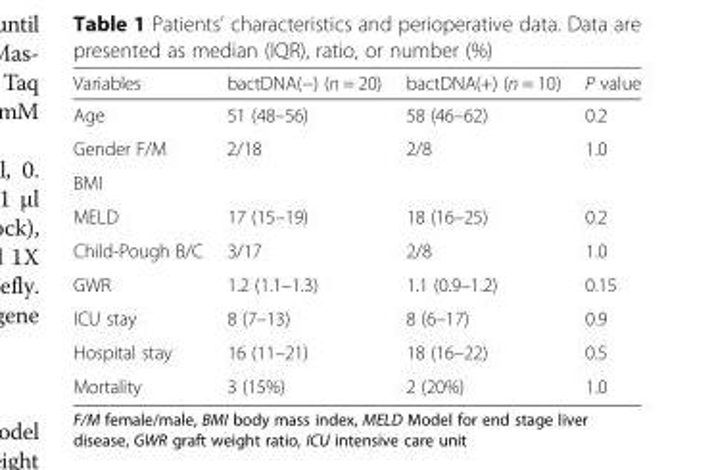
<table><thead><tr><td>Variables</td><td>bactDNA(−) (n = 20)</td><td>bactDNA(+) (n = 10)</td><td>P value</td></tr></thead><tbody><tr><td>Age</td><td>51 (48–56)</td><td>58 (46–62)</td><td>0.2</td></tr><tr><td>Gender F/M</td><td>2/18</td><td>2/8</td><td>1.0</td></tr><tr><td colspan="4">BMI</td></tr><tr><td>MELD</td><td>17 (15–19)</td><td>18 (16–25)</td><td>0.2</td></tr><tr><td>Child-Pough B/C</td><td>3/17</td><td>2/8</td><td>1.0</td></tr><tr><td>GWR</td><td>1.2 (1.1–1.3)</td><td>1.1 (0.9–1.2)</td><td>0.15</td></tr><tr><td>ICU stay</td><td>8 (7–13)</td><td>8 (6–17)</td><td>0.9</td></tr><tr><td>Hospital stay</td><td>16 (11–21)</td><td>18 (16–22)</td><td>0.5</td></tr><tr><td>Mortality</td><td>3 (15%)</td><td>2 (20%)</td><td>1.0</td></tr></tbody></table>